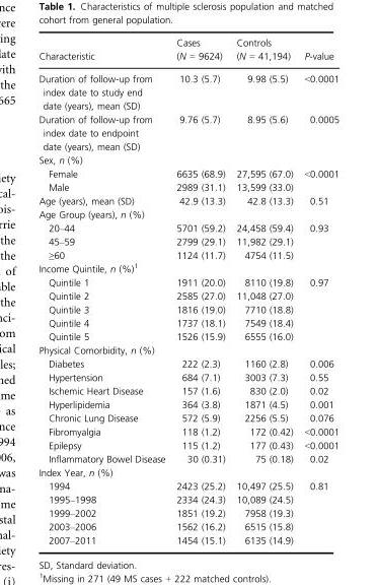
<table><thead><tr><td>Characteristic</td><td>Cases (N = 9624)</td><td>Controls (N = 41,194)</td><td>P-value</td></tr></thead><tbody><tr><td>Duration of follow-up from index date to study end date (years), mean (SD)</td><td>10.3 (5.7)</td><td>9.98 (5.5)</td><td>&lt;0.0001</td></tr><tr><td>Duration of follow-up from index date to endpoint date (years), mean (SD)</td><td>9.76 (5.7)</td><td>8.95 (5.6)</td><td>0.0005</td></tr><tr><td colspan="4">Sex, n (%)</td></tr><tr><td>Female</td><td>6635 (68.9)</td><td>27,595 (67.0)</td><td>&lt;0.0001</td></tr><tr><td>Male</td><td>2989 (31.1)</td><td>13,599 (33.0)</td><td></td></tr><tr><td>Age (years), mean (SD)</td><td>42.9 (13.3)</td><td>42.8 (13.3)</td><td>0.51</td></tr><tr><td colspan="4">Age Group (years), n (%)</td></tr><tr><td>20–44</td><td>5701 (59.2)</td><td>24,458 (59.4)</td><td>0.93</td></tr><tr><td>45–59</td><td>2799 (29.1)</td><td>11,982 (29.1)</td><td></td></tr><tr><td>≥60</td><td>1124 (11.7)</td><td>4754 (11.5)</td><td></td></tr><tr><td colspan="4">Income Quintile, n (%)1</td></tr><tr><td>Quintile 1</td><td>1911 (20.0)</td><td>8110 (19.8)</td><td>0.97</td></tr><tr><td>Quintile 2</td><td>2585 (27.0)</td><td>11,048 (27.0)</td><td></td></tr><tr><td>Quintile 3</td><td>1816 (19.0)</td><td>7710 (18.8)</td><td></td></tr><tr><td>Quintile 4</td><td>1737 (18.1)</td><td>7549 (18.4)</td><td></td></tr><tr><td>Quintile 5</td><td>1526 (15.9)</td><td>6555 (16.0)</td><td></td></tr><tr><td colspan="4">Physical Comorbidity, n (%)</td></tr><tr><td>Diabetes</td><td>222 (2.3)</td><td>1160 (2.8)</td><td>0.006</td></tr><tr><td>Hypertension</td><td>684 (7.1)</td><td>3003 (7.3)</td><td>0.55</td></tr><tr><td>Ischemic Heart Disease</td><td>157 (1.6)</td><td>830 (2.0)</td><td>0.02</td></tr><tr><td>Hyperlipidemia</td><td>364 (3.8)</td><td>1871 (4.5)</td><td>0.001</td></tr><tr><td>Chronic Lung Disease</td><td>572 (5.9)</td><td>2256 (5.5)</td><td>0.076</td></tr><tr><td>Fibromyalgia</td><td>118 (1.2)</td><td>172 (0.42)</td><td>&lt;0.0001</td></tr><tr><td>Epilepsy</td><td>115 (1.2)</td><td>177 (0.43)</td><td>&lt;0.0001</td></tr><tr><td>Inflammatory Bowel Disease</td><td>30 (0.31)</td><td>75 (0.18)</td><td>0.02</td></tr><tr><td colspan="4">Index Year, n (%)</td></tr><tr><td>1994</td><td>2423 (25.2)</td><td>10,497 (25.5)</td><td>0.81</td></tr><tr><td>1995–1998</td><td>2334 (24.3)</td><td>10,089 (24.5)</td><td></td></tr><tr><td>1999–2002</td><td>1851 (19.2)</td><td>7958 (19.3)</td><td></td></tr><tr><td>2003–2006</td><td>1562 (16.2)</td><td>6515 (15.8)</td><td></td></tr><tr><td>2007–2011</td><td>1454 (15.1)</td><td>6135 (14.9)</td><td></td></tr></tbody></table>